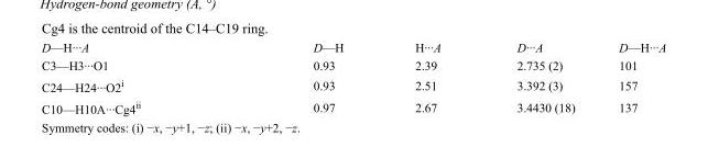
<table><tbody><tr><td>D—H···A</td><td>D—H</td><td>H···A</td><td>D···A</td><td>D—H···A</td></tr><tr><td>C3—H3···O1</td><td>0.93</td><td>2.39</td><td>2.735 (2)</td><td>101</td></tr><tr><td>C24—H24···O2<sup>i</sup></td><td>0.93</td><td>2.51</td><td>3.392 (3)</td><td>157</td></tr><tr><td>C10—H10A···Cg4<sup>ii</sup></td><td>0.97</td><td>2.67</td><td>3.4430 (18)</td><td>137</td></tr></tbody></table>